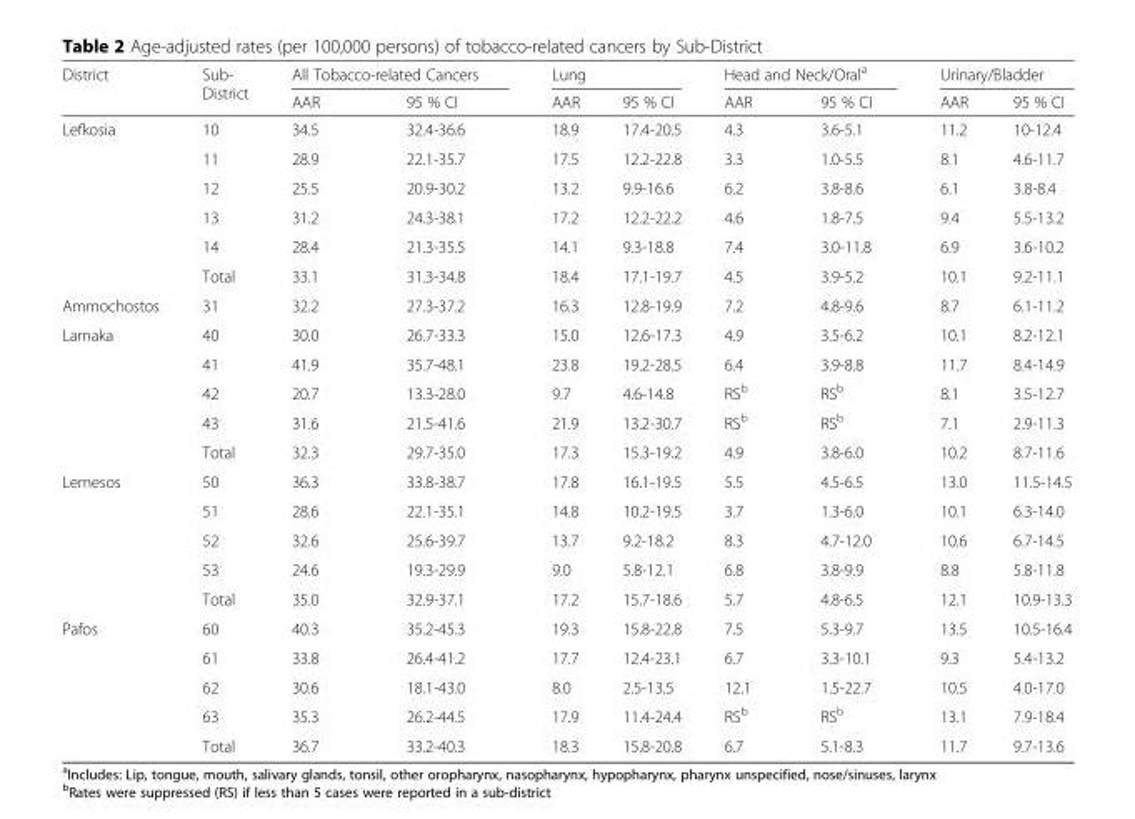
<table><thead><tr><td rowspan="2">District</td><td rowspan="2">Sub- District</td><td colspan="2">All Tobacco-related Cancers</td><td colspan="2">Lung</td><td colspan="2">Head and Neck/Oral<sup>a</sup></td><td colspan="2">Urinary/Bladder</td></tr><tr><td>AAR</td><td>95 % CI</td><td>AAR</td><td>95 % CI</td><td>AAR</td><td>95 % CI</td><td>AAR</td><td>95 % CI</td></tr></thead><tbody><tr><td rowspan="6">Lefkosia</td><td>10</td><td>34.5</td><td>32.4-36.6</td><td>18.9</td><td>17.4-20.5</td><td>4.3</td><td>3.6-5.1</td><td>11.2</td><td>10-12.4</td></tr><tr><td>11</td><td>28.9</td><td>22.1-35.7</td><td>17.5</td><td>12.2-22.8</td><td>3.3</td><td>1.0-5.5</td><td>8.1</td><td>4.6-11.7</td></tr><tr><td>12</td><td>25.5</td><td>20.9-30.2</td><td>13.2</td><td>9.9-16.6</td><td>6.2</td><td>3.8-8.6</td><td>6.1</td><td>3.8-8.4</td></tr><tr><td>13</td><td>31.2</td><td>24.3-38.1</td><td>17.2</td><td>12.2-22.2</td><td>4.6</td><td>1.8-7.5</td><td>9.4</td><td>5.5-13.2</td></tr><tr><td>14</td><td>28.4</td><td>21.3-35.5</td><td>14.1</td><td>9.3-18.8</td><td>7.4</td><td>3.0-11.8</td><td>6.9</td><td>3.6-10.2</td></tr><tr><td>Total</td><td>33.1</td><td>31.3-34.8</td><td>18.4</td><td>17.1-19.7</td><td>4.5</td><td>3.9-5.2</td><td>10.1</td><td>9.2-11.1</td></tr><tr><td>Ammochostos</td><td>31</td><td>32.2</td><td>27.3-37.2</td><td>16.3</td><td>12.8-19.9</td><td>7.2</td><td>4.8-9.6</td><td>8.7</td><td>6.1-11.2</td></tr><tr><td rowspan="5">Larnaka</td><td>40</td><td>30.0</td><td>26.7-33.3</td><td>15.0</td><td>12.6-17.3</td><td>4.9</td><td>3.5-6.2</td><td>10.1</td><td>8.2-12.1</td></tr><tr><td>41</td><td>41.9</td><td>35.7-48.1</td><td>23.8</td><td>19.2-28.5</td><td>6.4</td><td>3.9-8.8</td><td>11.7</td><td>8.4-14.9</td></tr><tr><td>42</td><td>20.7</td><td>13.3-28.0</td><td>9.7</td><td>4.6-14.8</td><td>RS<sup>b</sup></td><td>RS<sup>b</sup></td><td>8.1</td><td>3.5-12.7</td></tr><tr><td>43</td><td>31.6</td><td>21.5-41.6</td><td>21.9</td><td>13.2-30.7</td><td>RS<sup>b</sup></td><td>RS<sup>b</sup></td><td>7.1</td><td>2.9-11.3</td></tr><tr><td>Total</td><td>32.3</td><td>29.7-35.0</td><td>17.3</td><td>15.3-19.2</td><td>4.9</td><td>3.8-6.0</td><td>10.2</td><td>8.7-11.6</td></tr><tr><td rowspan="5">Lemesos</td><td>50</td><td>36.3</td><td>33.8-38.7</td><td>17.8</td><td>16.1-19.5</td><td>5.5</td><td>4.5-6.5</td><td>13.0</td><td>11.5-14.5</td></tr><tr><td>51</td><td>28.6</td><td>22.1-35.1</td><td>14.8</td><td>10.2-19.5</td><td>3.7</td><td>1.3-6.0</td><td>10.1</td><td>6.3-14.0</td></tr><tr><td>52</td><td>32.6</td><td>25.6-39.7</td><td>13.7</td><td>9.2-18.2</td><td>8.3</td><td>4.7-12.0</td><td>10.6</td><td>6.7-14.5</td></tr><tr><td>53</td><td>24.6</td><td>19.3-29.9</td><td>9.0</td><td>5.8-12.1</td><td>6.8</td><td>3.8-9.9</td><td>8.8</td><td>5.8-11.8</td></tr><tr><td>Total</td><td>35.0</td><td>32.9-37.1</td><td>17.2</td><td>15.7-18.6</td><td>5.7</td><td>4.8-6.5</td><td>12.1</td><td>10.9-13.3</td></tr><tr><td rowspan="5">Pafos</td><td>60</td><td>40.3</td><td>35.2-45.3</td><td>19.3</td><td>15.8-22.8</td><td>7.5</td><td>5.3-9.7</td><td>13.5</td><td>10.5-16.4</td></tr><tr><td>61</td><td>33.8</td><td>26.4-41.2</td><td>17.7</td><td>12.4-23.1</td><td>6.7</td><td>3.3-10.1</td><td>9.3</td><td>5.4-13.2</td></tr><tr><td>62</td><td>30.6</td><td>18.1-43.0</td><td>8.0</td><td>2.5-13.5</td><td>12.1</td><td>1.5-22.7</td><td>10.5</td><td>4.0-17.0</td></tr><tr><td>63</td><td>35.3</td><td>26.2-44.5</td><td>17.9</td><td>11.4-24.4</td><td>RS<sup>b</sup></td><td>RS<sup>b</sup></td><td>13.1</td><td>7.9-18.4</td></tr><tr><td>Total</td><td>36.7</td><td>33.2-40.3</td><td>18.3</td><td>15.8-20.8</td><td>6.7</td><td>5.1-8.3</td><td>11.7</td><td>9.7-13.6</td></tr></tbody></table>